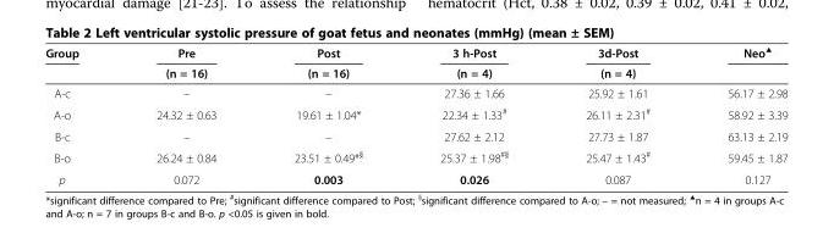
<table><thead><tr><td rowspan="2">Group</td><td rowspan="2">Pre (n = 16)</td><td rowspan="2">Post (n = 16)</td><td rowspan="2">3 h-Post (n = 4)</td><td rowspan="2">3d-Post (n = 4)</td><td rowspan="2">Neo▲</td></tr><tr></tr></thead><tbody><tr><td>A-c</td><td>–</td><td>–</td><td>27.36 ± 1.66</td><td>25.92 ± 1.61</td><td>56.17 ± 2.98</td></tr><tr><td>A-o</td><td>24.32 ± 0.63</td><td>19.61 ± 1.04*</td><td>22.34 ± 1.33<sup>#</sup></td><td>26.11 ± 2.31<sup>#</sup></td><td>58.92 ± 3.39</td></tr><tr><td>B-c</td><td>–</td><td>–</td><td>27.62 ± 2.12</td><td>27.73 ± 1.87</td><td>63.13 ± 2.19</td></tr><tr><td>B-o</td><td>26.24 ± 0.84</td><td>23.51 ± 0.49*<sup>§</sup></td><td>25.37 ± 1.98<sup>#§</sup></td><td>25.47 ± 1.43<sup>#</sup></td><td>59.45 ± 1.87</td></tr><tr><td>p</td><td>0.072</td><td>0.003</td><td>0.026</td><td>0.087</td><td>0.127</td></tr></tbody></table>